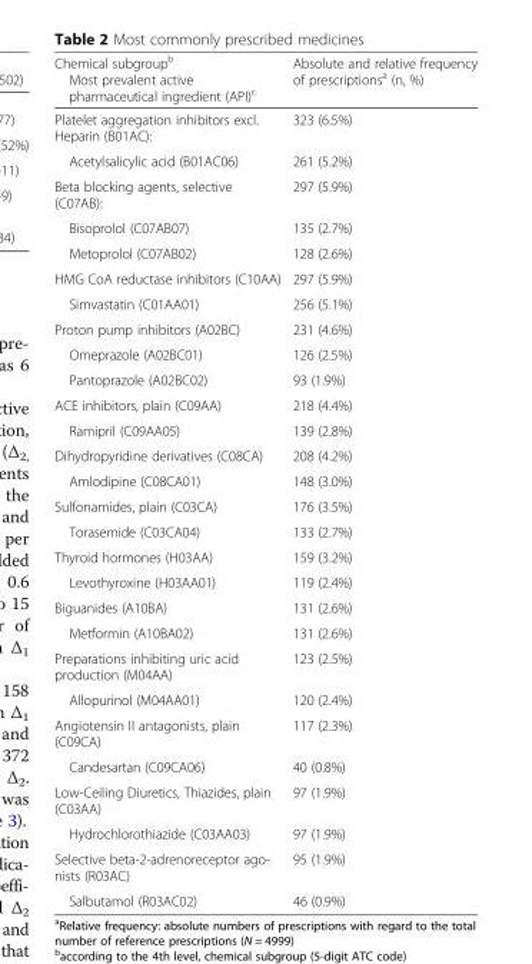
<table><thead><tr><td>Chemical subgroup<sup>b</sup> Most prevalent active pharmaceutical ingredient (API)<sup>c</sup></td><td>Absolute and relative frequency of prescriptions<sup>a</sup> (n, %)</td></tr></thead><tbody><tr><td>Platelet aggregation inhibitors excl. Heparin (B01AC):</td><td>323 (6.5%)</td></tr><tr><td>Acetylsalicylic acid (B01AC06)</td><td>261 (5.2%)</td></tr><tr><td>Beta blocking agents, selective (C07AB):</td><td>297 (5.9%)</td></tr><tr><td>Bisoprolol (C07AB07)</td><td>135 (2.7%)</td></tr><tr><td>Metoprolol (C07AB02)</td><td>128 (2.6%)</td></tr><tr><td>HMG CoA reductase inhibitors (C10AA)</td><td>297 (5.9%)</td></tr><tr><td>Simvastatin (C01AA01)</td><td>256 (5.1%)</td></tr><tr><td>Proton pump inhibitors (A02BC)</td><td>231 (4.6%)</td></tr><tr><td>Omeprazole (A02BC01)</td><td>126 (2.5%)</td></tr><tr><td>Pantoprazole (A02BC02)</td><td>93 (1.9%)</td></tr><tr><td>ACE inhibitors, plain (C09AA)</td><td>218 (4.4%)</td></tr><tr><td>Ramipril (C09AA05)</td><td>139 (2.8%)</td></tr><tr><td>Dihydropyridine derivatives (C08CA)</td><td>208 (4.2%)</td></tr><tr><td>Amlodipine (C08CA01)</td><td>148 (3.0%)</td></tr><tr><td>Sulfonamides, plain (C03CA)</td><td>176 (3.5%)</td></tr><tr><td>Torasemide (C03CA04)</td><td>133 (2.7%)</td></tr><tr><td>Thyroid hormones (H03AA)</td><td>159 (3.2%)</td></tr><tr><td>Levothyroxine (H03AA01)</td><td>119 (2.4%)</td></tr><tr><td>Biguanides (A10BA)</td><td>131 (2.6%)</td></tr><tr><td>Metformin (A10BA02)</td><td>131 (2.6%)</td></tr><tr><td>Preparations inhibiting uric acid production (M04AA)</td><td>123 (2.5%)</td></tr><tr><td>Allopurinol (M04AA01)</td><td>120 (2.4%)</td></tr><tr><td>Angiotensin II antagonists, plain (C09CA)</td><td>117 (2.3%)</td></tr><tr><td>Candesartan (C09CA06)</td><td>40 (0.8%)</td></tr><tr><td>Low-Ceiling Diuretics, Thiazides, plain (C03AA)</td><td>97 (1.9%)</td></tr><tr><td>Hydrochlorothiazide (C03AA03)</td><td>97 (1.9%)</td></tr><tr><td>Selective beta-2-adrenoreceptor ago- nists (R03AC)</td><td>95 (1.9%)</td></tr><tr><td>Salbutamol (R03AC02)</td><td>46 (0.9%)</td></tr></tbody></table>